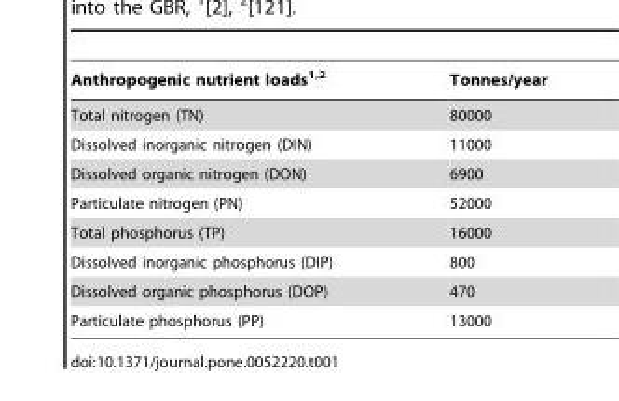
<table><thead><tr><td>Anthropogenic nutrient loads<sup>1,2</sup></td><td>Tonnes/year</td></tr></thead><tbody><tr><td>Total nitrogen (TN)</td><td>80000</td></tr><tr><td>Dissolved inorganic nitrogen (DIN)</td><td>11000</td></tr><tr><td>Dissolved organic nitrogen (DON)</td><td>6900</td></tr><tr><td>Particulate nitrogen (PN)</td><td>52000</td></tr><tr><td>Total phosphorus (TP)</td><td>16000</td></tr><tr><td>Dissolved inorganic phosphorus (DIP)</td><td>800</td></tr><tr><td>Dissolved organic phosphorus (DOP)</td><td>470</td></tr><tr><td>Particulate phosphorus (PP)</td><td>13000</td></tr></tbody></table>